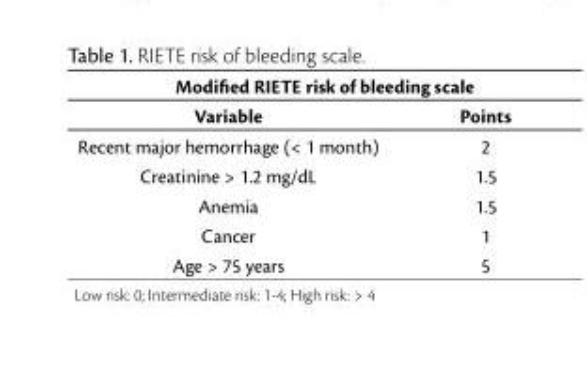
<table><thead><tr><td colspan="2">Modified RIETE risk of bleeding scale</td></tr><tr><td>Variable</td><td>Points</td></tr></thead><tbody><tr><td>Recent major hemorrhage (&lt; 1 month)</td><td>2</td></tr><tr><td>Creatinine &gt; 1.2 mg/dL</td><td>1.5</td></tr><tr><td>Anemia</td><td>1.5</td></tr><tr><td>Cancer</td><td>1</td></tr><tr><td>Age &gt; 75 years</td><td>5</td></tr><tr><td colspan="2">Low risk: 0; Intermediate risk: 1-4; High risk: &gt; 4</td></tr></tbody></table>